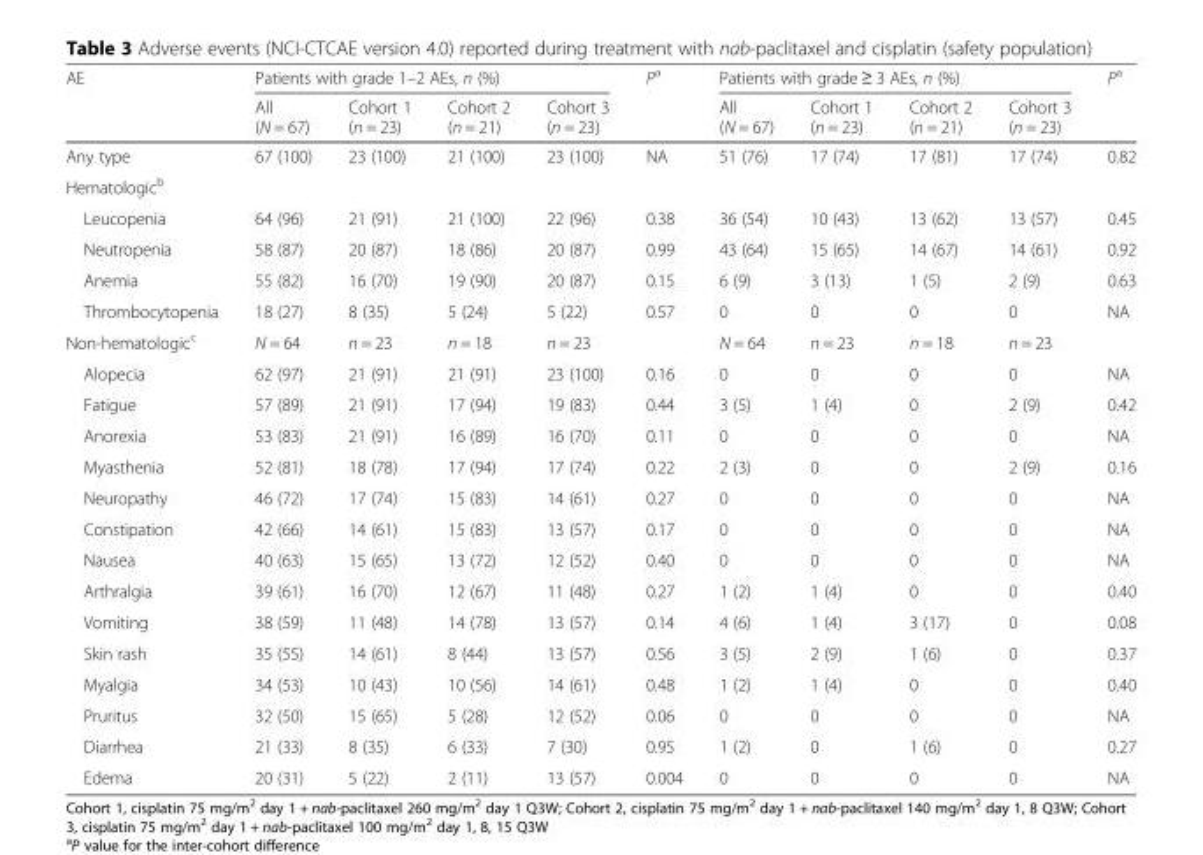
<table><thead><tr><td rowspan="2">AE</td><td colspan="4">Patients with grade 1–2 AEs, n (%)</td><td rowspan="2">P<sup>a</sup></td><td colspan="4">Patients with grade ≥ 3 AEs, n (%)</td><td rowspan="2">P<sup>a</sup></td></tr><tr><td>All (N = 67)</td><td>Cohort 1 (n = 23)</td><td>Cohort 2 (n = 21)</td><td>Cohort 3 (n = 23)</td><td>All (N = 67)</td><td>Cohort 1 (n = 23)</td><td>Cohort 2 (n = 21)</td><td>Cohort 3 (n = 23)</td></tr></thead><tbody><tr><td>Any type</td><td>67 (100)</td><td>23 (100)</td><td>21 (100)</td><td>23 (100)</td><td>NA</td><td>51 (76)</td><td>17 (74)</td><td>17 (81)</td><td>17 (74)</td><td>0.82</td></tr><tr><td colspan="11">Hematologic<sup>b</sup></td></tr><tr><td>Leucopenia</td><td>64 (96)</td><td>21 (91)</td><td>21 (100)</td><td>22 (96)</td><td>0.38</td><td>36 (54)</td><td>10 (43)</td><td>13 (62)</td><td>13 (57)</td><td>0.45</td></tr><tr><td>Neutropenia</td><td>58 (87)</td><td>20 (87)</td><td>18 (86)</td><td>20 (87)</td><td>0.99</td><td>43 (64)</td><td>15 (65)</td><td>14 (67)</td><td>14 (61)</td><td>0.92</td></tr><tr><td>Anemia</td><td>55 (82)</td><td>16 (70)</td><td>19 (90)</td><td>20 (87)</td><td>0.15</td><td>6 (9)</td><td>3 (13)</td><td>1 (5)</td><td>2 (9)</td><td>0.63</td></tr><tr><td>Thrombocytopenia</td><td>18 (27)</td><td>8 (35)</td><td>5 (24)</td><td>5 (22)</td><td>0.57</td><td>0</td><td>0</td><td>0</td><td>0</td><td>NA</td></tr><tr><td>Non-hematologic<sup>c</sup></td><td>N = 64</td><td>n = 23</td><td>n = 18</td><td>n = 23</td><td></td><td>N = 64</td><td>n = 23</td><td>n = 18</td><td>n = 23</td><td></td></tr><tr><td>Alopecia</td><td>62 (97)</td><td>21 (91)</td><td>21 (91)</td><td>23 (100)</td><td>0.16</td><td>0</td><td>0</td><td>0</td><td>0</td><td>NA</td></tr><tr><td>Fatigue</td><td>57 (89)</td><td>21 (91)</td><td>17 (94)</td><td>19 (83)</td><td>0.44</td><td>3 (5)</td><td>1 (4)</td><td>0</td><td>2 (9)</td><td>0.42</td></tr><tr><td>Anorexia</td><td>53 (83)</td><td>21 (91)</td><td>16 (89)</td><td>16 (70)</td><td>0.11</td><td>0</td><td>0</td><td>0</td><td>0</td><td>NA</td></tr><tr><td>Myasthenia</td><td>52 (81)</td><td>18 (78)</td><td>17 (94)</td><td>17 (74)</td><td>0.22</td><td>2 (3)</td><td>0</td><td>0</td><td>2 (9)</td><td>0.16</td></tr><tr><td>Neuropathy</td><td>46 (72)</td><td>17 (74)</td><td>15 (83)</td><td>14 (61)</td><td>0.27</td><td>0</td><td>0</td><td>0</td><td>0</td><td>NA</td></tr><tr><td>Constipation</td><td>42 (66)</td><td>14 (61)</td><td>15 (83)</td><td>13 (57)</td><td>0.17</td><td>0</td><td>0</td><td>0</td><td>0</td><td>NA</td></tr><tr><td>Nausea</td><td>40 (63)</td><td>15 (65)</td><td>13 (72)</td><td>12 (52)</td><td>0.40</td><td>0</td><td>0</td><td>0</td><td>0</td><td>NA</td></tr><tr><td>Arthralgia</td><td>39 (61)</td><td>16 (70)</td><td>12 (67)</td><td>11 (48)</td><td>0.27</td><td>1 (2)</td><td>1 (4)</td><td>0</td><td>0</td><td>0.40</td></tr><tr><td>Vomiting</td><td>38 (59)</td><td>11 (48)</td><td>14 (78)</td><td>13 (57)</td><td>0.14</td><td>4 (6)</td><td>1 (4)</td><td>3 (17)</td><td>0</td><td>0.08</td></tr><tr><td>Skin rash</td><td>35 (55)</td><td>14 (61)</td><td>8 (44)</td><td>13 (57)</td><td>0.56</td><td>3 (5)</td><td>2 (9)</td><td>1 (6)</td><td>0</td><td>0.37</td></tr><tr><td>Myalgia</td><td>34 (53)</td><td>10 (43)</td><td>10 (56)</td><td>14 (61)</td><td>0.48</td><td>1 (2)</td><td>1 (4)</td><td>0</td><td>0</td><td>0.40</td></tr><tr><td>Pruritus</td><td>32 (50)</td><td>15 (65)</td><td>5 (28)</td><td>12 (52)</td><td>0.06</td><td>0</td><td>0</td><td>0</td><td>0</td><td>NA</td></tr><tr><td>Diarrhea</td><td>21 (33)</td><td>8 (35)</td><td>6 (33)</td><td>7 (30)</td><td>0.95</td><td>1 (2)</td><td>0</td><td>1 (6)</td><td>0</td><td>0.27</td></tr><tr><td>Edema</td><td>20 (31)</td><td>5 (22)</td><td>2 (11)</td><td>13 (57)</td><td>0.004</td><td>0</td><td>0</td><td>0</td><td>0</td><td>NA</td></tr></tbody></table>